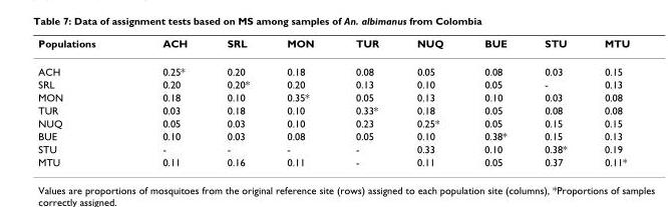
<table><thead><tr><td>Populations</td><td>ACH</td><td>SRL</td><td>MON</td><td>TUR</td><td>NUQ</td><td>BUE</td><td>STU</td><td>MTU</td></tr></thead><tbody><tr><td>ACH</td><td>0.25*</td><td>0.20</td><td>0.18</td><td>0.08</td><td>0.05</td><td>0.08</td><td>0.03</td><td>0.15</td></tr><tr><td>SRL</td><td>0.20</td><td>0.20*</td><td>0.20</td><td>0.13</td><td>0.10</td><td>0.05</td><td>-</td><td>0.13</td></tr><tr><td>MON</td><td>0.18</td><td>0.10</td><td>0.35*</td><td>0.05</td><td>0.13</td><td>0.10</td><td>0.03</td><td>0.08</td></tr><tr><td>TUR</td><td>0.03</td><td>0.18</td><td>0.10</td><td>0.33*</td><td>0.18</td><td>0.05</td><td>0.08</td><td>0.08</td></tr><tr><td>NUQ</td><td>0.05</td><td>0.03</td><td>0.10</td><td>0.23</td><td>0.25*</td><td>0.05</td><td>0.15</td><td>0.15</td></tr><tr><td>BUE</td><td>0.10</td><td>0.03</td><td>0.08</td><td>0.05</td><td>0.10</td><td>0.38*</td><td>0.15</td><td>0.13</td></tr><tr><td>STU</td><td>-</td><td>-</td><td>-</td><td>-</td><td>0.33</td><td>0.10</td><td>0.38*</td><td>0.19</td></tr><tr><td>MTU</td><td>0.11</td><td>0.16</td><td>0.11</td><td>-</td><td>0.11</td><td>0.05</td><td>0.37</td><td>0.11*</td></tr></tbody></table>